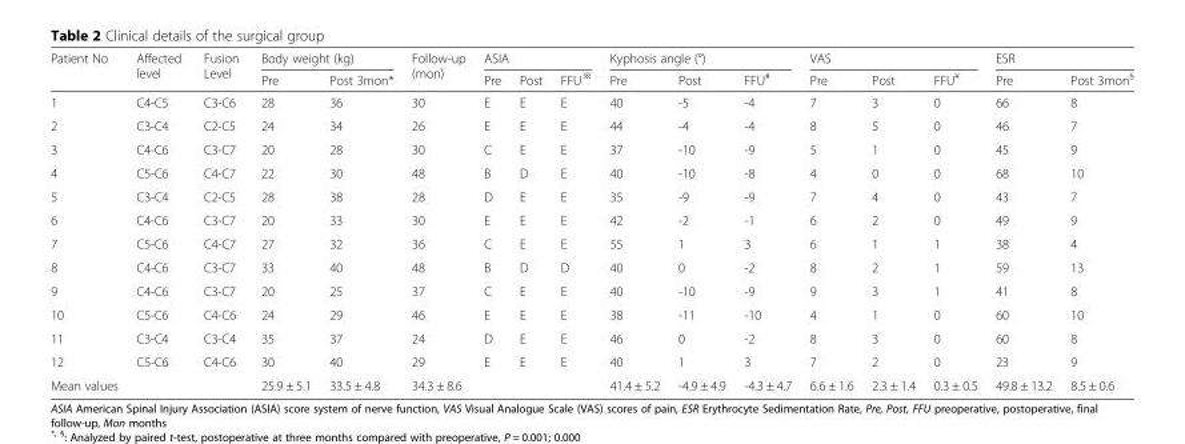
<table><thead><tr><td rowspan="2">Patient No</td><td rowspan="2">Affected level</td><td rowspan="2">Fusion Level</td><td colspan="2">Body weight (kg)</td><td rowspan="2">Follow-up (mon)</td><td colspan="3">ASIA</td><td colspan="3">Kyphosis angle (°)</td><td colspan="3">VAS</td><td colspan="2">ESR</td></tr><tr><td>Pre</td><td>Post 3mon*</td><td>Pre</td><td>Post</td><td>FFU<sup>※</sup></td><td>Pre</td><td>Post</td><td>FFU<sup>#</sup></td><td>Pre</td><td>Post</td><td>FFU<sup>¥</sup></td><td>Pre</td><td>Post 3mon<sup>§</sup></td></tr></thead><tbody><tr><td>1</td><td>C4-C5</td><td>C3-C6</td><td>28</td><td>36</td><td>30</td><td>E</td><td>E</td><td>E</td><td>40</td><td>-5</td><td>-4</td><td>7</td><td>3</td><td>0</td><td>66</td><td>8</td></tr><tr><td>2</td><td>C3-C4</td><td>C2-C5</td><td>24</td><td>34</td><td>26</td><td>E</td><td>E</td><td>E</td><td>44</td><td>-4</td><td>-4</td><td>8</td><td>5</td><td>0</td><td>46</td><td>7</td></tr><tr><td>3</td><td>C4-C6</td><td>C3-C7</td><td>20</td><td>28</td><td>30</td><td>C</td><td>E</td><td>E</td><td>37</td><td>-10</td><td>-9</td><td>5</td><td>1</td><td>0</td><td>45</td><td>9</td></tr><tr><td>4</td><td>C5-C6</td><td>C4-C7</td><td>22</td><td>30</td><td>48</td><td>B</td><td>D</td><td>E</td><td>40</td><td>-10</td><td>-8</td><td>4</td><td>0</td><td>0</td><td>68</td><td>10</td></tr><tr><td>5</td><td>C3-C4</td><td>C2-C5</td><td>28</td><td>38</td><td>28</td><td>D</td><td>E</td><td>E</td><td>35</td><td>-9</td><td>-9</td><td>7</td><td>4</td><td>0</td><td>43</td><td>7</td></tr><tr><td>6</td><td>C4-C6</td><td>C3-C7</td><td>20</td><td>33</td><td>30</td><td>E</td><td>E</td><td>E</td><td>42</td><td>-2</td><td>-1</td><td>6</td><td>2</td><td>0</td><td>49</td><td>9</td></tr><tr><td>7</td><td>C5-C6</td><td>C4-C7</td><td>27</td><td>32</td><td>36</td><td>C</td><td>E</td><td>E</td><td>55</td><td>1</td><td>3</td><td>6</td><td>1</td><td>1</td><td>38</td><td>4</td></tr><tr><td>8</td><td>C4-C6</td><td>C3-C7</td><td>33</td><td>40</td><td>48</td><td>B</td><td>D</td><td>D</td><td>40</td><td>0</td><td>-2</td><td>8</td><td>2</td><td>1</td><td>59</td><td>13</td></tr><tr><td>9</td><td>C4-C6</td><td>C3-C7</td><td>20</td><td>25</td><td>37</td><td>C</td><td>E</td><td>E</td><td>40</td><td>-10</td><td>-9</td><td>9</td><td>3</td><td>1</td><td>41</td><td>8</td></tr><tr><td>10</td><td>C5-C6</td><td>C4-C6</td><td>24</td><td>29</td><td>46</td><td>E</td><td>E</td><td>E</td><td>38</td><td>-11</td><td>-10</td><td>4</td><td>1</td><td>0</td><td>60</td><td>10</td></tr><tr><td>11</td><td>C3-C4</td><td>C3-C4</td><td>35</td><td>37</td><td>24</td><td>D</td><td>E</td><td>E</td><td>46</td><td>0</td><td>-2</td><td>8</td><td>3</td><td>0</td><td>60</td><td>8</td></tr><tr><td>12</td><td>C5-C6</td><td>C4-C6</td><td>30</td><td>40</td><td>29</td><td>E</td><td>E</td><td>E</td><td>40</td><td>1</td><td>3</td><td>7</td><td>2</td><td>0</td><td>23</td><td>9</td></tr><tr><td>Mean values</td><td></td><td></td><td>25.9 ± 5.1</td><td>33.5 ± 4.8</td><td>34.3 ± 8.6</td><td></td><td></td><td></td><td>41.4 ± 5.2</td><td>-4.9 ± 4.9</td><td>-4.3 ± 4.7</td><td>6.6 ± 1.6</td><td>2.3 ± 1.4</td><td>0.3 ± 0.5</td><td>49.8 ± 13.2</td><td>8.5 ± 0.6</td></tr></tbody></table>